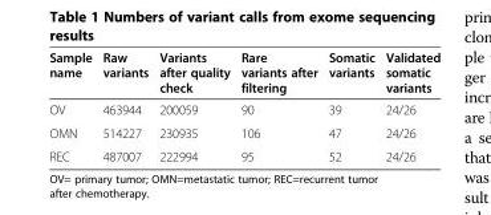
<table><thead><tr><td>Sample name</td><td>Raw variants</td><td>Variants after quality check</td><td>Rare variants after filtering</td><td>Somatic variants</td><td>Validated somatic variants</td></tr></thead><tbody><tr><td>OV</td><td>463944</td><td>200059</td><td>90</td><td>39</td><td>24/26</td></tr><tr><td>OMN</td><td>514227</td><td>230935</td><td>106</td><td>47</td><td>24/26</td></tr><tr><td>REC</td><td>487007</td><td>222994</td><td>95</td><td>52</td><td>24/26</td></tr></tbody></table>